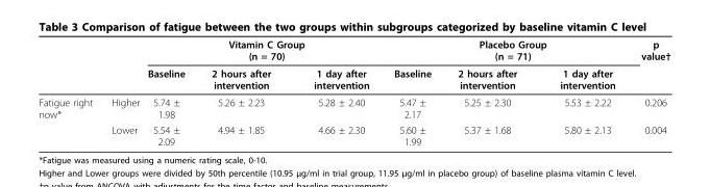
<table><thead><tr><td rowspan="2"></td><td rowspan="2"></td><td colspan="3">Vitamin C Group (n = 70)</td><td colspan="3">Placebo Group (n = 71)</td><td rowspan="2">p value†</td></tr><tr><td>Baseline</td><td>2 hours after intervention</td><td>1 day after intervention</td><td>Baseline</td><td>2 hours after intervention</td><td>1 day after intervention</td></tr></thead><tbody><tr><td rowspan="2">Fatigue right now*</td><td>Higher</td><td>5.74 ± 1.98</td><td>5.26 ± 2.23</td><td>5.28 ± 2.40</td><td>5.47 ± 2.17</td><td>5.25 ± 2.30</td><td>5.53 ± 2.22</td><td>0.206</td></tr><tr><td>Lower</td><td>5.54 ± 2.09</td><td>4.94 ± 1.85</td><td>4.66 ± 2.30</td><td>5.60 ± 1.99</td><td>5.37 ± 1.68</td><td>5.80 ± 2.13</td><td>0.004</td></tr></tbody></table>